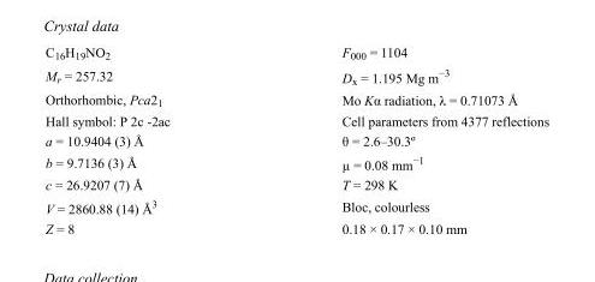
<table><tbody><tr><td>C<sub>16</sub>H<sub>19</sub>NO<sub>2</sub></td><td>F000 = 1104</td></tr><tr><td>M<sub>r</sub> = 257.32</td><td>D<sub>x</sub> = 1.195 Mg m<sup>−3</sup></td></tr><tr><td>Orthorhombic, Pca2<sub>1</sub></td><td>Mo Kα radiation, λ = 0.71073 Å</td></tr><tr><td>Hall symbol: P 2c -2ac</td><td>Cell parameters from 4377 reflections</td></tr><tr><td>a = 10.9404 (3) Å</td><td>θ = 2.6–30.3º</td></tr><tr><td>b = 9.7136 (3) Å</td><td>µ = 0.08 mm<sup>−1</sup></td></tr><tr><td>c = 26.9207 (7) Å</td><td>T = 298 K</td></tr><tr><td>V = 2860.88 (14) Å<sup>3</sup></td><td>Bloc, colourless</td></tr><tr><td>Z = 8</td><td>0.18 × 0.17 × 0.10 mm</td></tr></tbody></table>